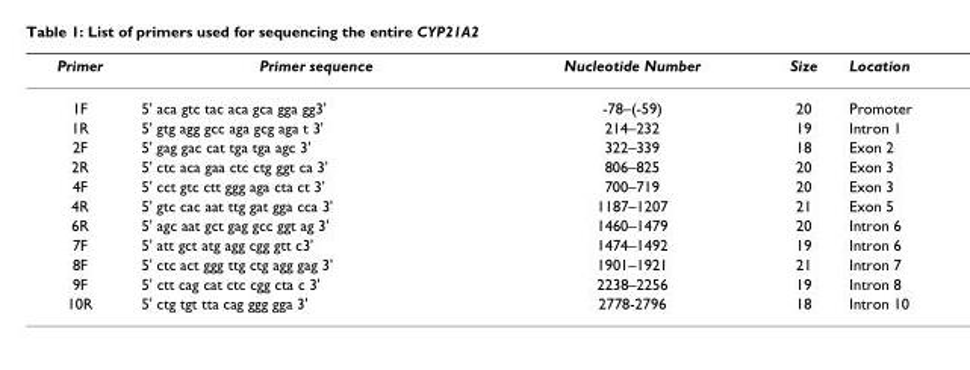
<table><thead><tr><td>Primer</td><td>Primer sequence</td><td>Nucleotide Number</td><td>Size</td><td>Location</td></tr></thead><tbody><tr><td>1F</td><td>5&#x27; aca gtc tac aca gca gga gg3&#x27;</td><td>-78–(-59)</td><td>20</td><td>Promoter</td></tr><tr><td>1R</td><td>5&#x27; gtg agg gcc aga gcg aga t 3&#x27;</td><td>214–232</td><td>19</td><td>Intron 1</td></tr><tr><td>2F</td><td>5&#x27; gag gac cat tga tga agc 3&#x27;</td><td>322–339</td><td>18</td><td>Exon 2</td></tr><tr><td>2R</td><td>5&#x27; ctc aca gaa ctc ctg ggt ca 3&#x27;</td><td>806–825</td><td>20</td><td>Exon 3</td></tr><tr><td>4F</td><td>5&#x27; cct gtc ctt ggg aga cta ct 3&#x27;</td><td>700–719</td><td>20</td><td>Exon 3</td></tr><tr><td>4R</td><td>5&#x27; gtc cac aat ttg gat gga cca 3&#x27;</td><td>1187–1207</td><td>21</td><td>Exon 5</td></tr><tr><td>6R</td><td>5&#x27; agc aat gct gag gcc ggt ag 3&#x27;</td><td>1460–1479</td><td>20</td><td>Intron 6</td></tr><tr><td>7F</td><td>5&#x27; att gct atg agg cgg gtt c3&#x27;</td><td>1474–1492</td><td>19</td><td>Intron 6</td></tr><tr><td>8F</td><td>5&#x27; ctc act ggg ttg ctg agg gag 3&#x27;</td><td>1901–1921</td><td>21</td><td>Intron 7</td></tr><tr><td>9F</td><td>5&#x27; ctt cag cat ctc cgg cta c 3&#x27;</td><td>2238–2256</td><td>19</td><td>Intron 8</td></tr><tr><td>10R</td><td>5&#x27; ctg tgt tta cag ggg gga 3&#x27;</td><td>2778-2796</td><td>18</td><td>Intron 10</td></tr></tbody></table>